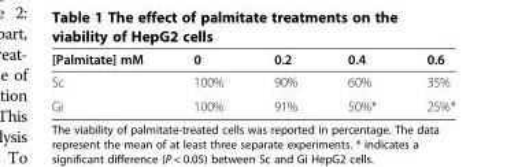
<table><thead><tr><td>[Palmitate] mM</td><td>0</td><td>0.2</td><td>0.4</td><td>0.6</td></tr></thead><tbody><tr><td>Sc</td><td>100%</td><td>90%</td><td>60%</td><td>35%</td></tr><tr><td>Gi</td><td>100%</td><td>91%</td><td>50%*</td><td>25%*</td></tr></tbody></table>